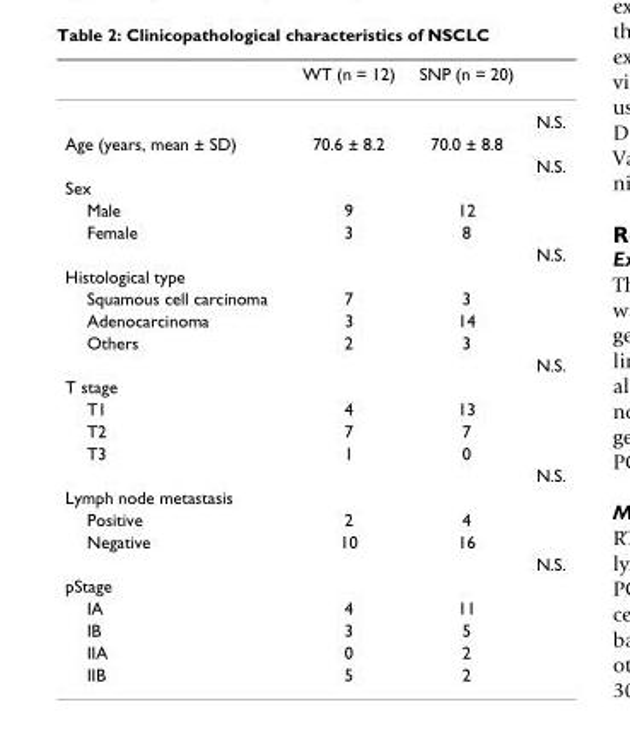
<table><thead><tr><td></td><td>WT (n = 12)</td><td>SNP (n = 20)</td><td></td></tr></thead><tbody><tr><td></td><td></td><td></td><td>N.S.</td></tr><tr><td rowspan="2">Age (years, mean ± SD)</td><td>70.6 ± 8.2</td><td>70.0 ± 8.8</td><td></td></tr><tr><td></td><td></td><td>N.S.</td></tr><tr><td colspan="4">Sex</td></tr><tr><td>Male</td><td>9</td><td>12</td><td></td></tr><tr><td rowspan="2">Female</td><td>3</td><td>8</td><td></td></tr><tr><td></td><td></td><td>N.S.</td></tr><tr><td colspan="4">Histological type</td></tr><tr><td>Squamous cell carcinoma</td><td>7</td><td>3</td><td></td></tr><tr><td>Adenocarcinoma</td><td>3</td><td>14</td><td></td></tr><tr><td rowspan="2">Others</td><td>2</td><td>3</td><td></td></tr><tr><td></td><td></td><td>N.S.</td></tr><tr><td colspan="4">T stage</td></tr><tr><td>T1</td><td>4</td><td>13</td><td></td></tr><tr><td>T2</td><td>7</td><td>7</td><td></td></tr><tr><td rowspan="2">T3</td><td>1</td><td>0</td><td></td></tr><tr><td></td><td></td><td>N.S.</td></tr><tr><td colspan="4">Lymph node metastasis</td></tr><tr><td>Positive</td><td>2</td><td>4</td><td></td></tr><tr><td rowspan="2">Negative</td><td>10</td><td>16</td><td></td></tr><tr><td></td><td></td><td>N.S.</td></tr><tr><td colspan="4">pStage</td></tr><tr><td>IA</td><td>4</td><td>11</td><td></td></tr><tr><td>IB</td><td>3</td><td>5</td><td></td></tr><tr><td>IIA</td><td>0</td><td>2</td><td></td></tr><tr><td>IIB</td><td>5</td><td>2</td><td></td></tr></tbody></table>